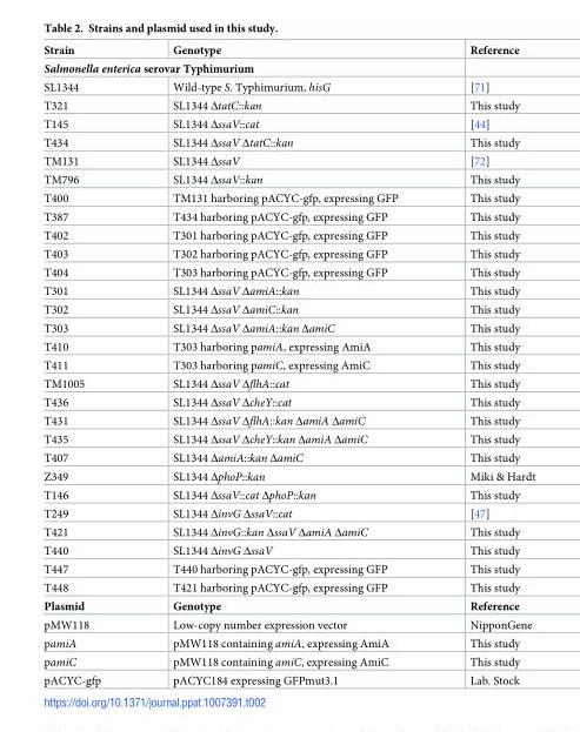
<table><tbody><tr><td>Strain</td><td>Genotype</td><td>Reference</td></tr><tr><td colspan="3">Salmonella enterica serovar Typhimurium</td></tr><tr><td>SL1344</td><td>Wild-type S. Typhimurium, hisG</td><td>[71]</td></tr><tr><td>T321</td><td>SL1344 ΔtatC::kan</td><td>This study</td></tr><tr><td>T145</td><td>SL1344 ΔssaV::cat</td><td>[44]</td></tr><tr><td>T434</td><td>SL1344 ΔssaV ΔtatC::kan</td><td>This study</td></tr><tr><td>TM131</td><td>SL1344 ΔssaV</td><td>[72]</td></tr><tr><td>TM796</td><td>SL1344 ΔssaV::kan</td><td>This study</td></tr><tr><td>T400</td><td>TM131 harboring pACYC-gfp, expressing GFP</td><td>This study</td></tr><tr><td>T387</td><td>T434 harboring pACYC-gfp, expressing GFP</td><td>This study</td></tr><tr><td>T402</td><td>T301 harboring pACYC-gfp, expressing GFP</td><td>This study</td></tr><tr><td>T403</td><td>T302 harboring pACYC-gfp, expressing GFP</td><td>This study</td></tr><tr><td>T404</td><td>T303 harboring pACYC-gfp, expressing GFP</td><td>This study</td></tr><tr><td>T301</td><td>SL1344 ΔssaV ΔamiA::kan</td><td>This study</td></tr><tr><td>T302</td><td>SL1344 ΔssaV ΔamiC::kan</td><td>This study</td></tr><tr><td>T303</td><td>SL1344 ΔssaV ΔamiA::kan ΔamiC</td><td>This study</td></tr><tr><td>T410</td><td>T303 harboring pamiA, expressing AmiA</td><td>This study</td></tr><tr><td>T411</td><td>T303 harboring pamiC, expressing AmiC</td><td>This study</td></tr><tr><td>TM1005</td><td>SL1344 ΔssaV ΔflhA::cat</td><td>This study</td></tr><tr><td>T436</td><td>SL1344 ΔssaV ΔcheY::cat</td><td>This study</td></tr><tr><td>T431</td><td>SL1344 ΔssaV ΔflhA::kan ΔamiA ΔamiC</td><td>This study</td></tr><tr><td>T435</td><td>SL1344 ΔssaV ΔcheY::kan ΔamiA ΔamiC</td><td>This study</td></tr><tr><td>T407</td><td>SL1344 ΔamiA::kan ΔamiC</td><td>This study</td></tr><tr><td>Z349</td><td>SL1344 ΔphoP::kan</td><td>Miki &amp; Hardt</td></tr><tr><td>T146</td><td>SL1344 ΔssaV::cat ΔphoP::kan</td><td>This study</td></tr><tr><td>T249</td><td>SL1344 ΔinvG ΔssaV::cat</td><td>[47]</td></tr><tr><td>T421</td><td>SL1344 ΔinvG::kan ΔssaV ΔamiA ΔamiC</td><td>This study</td></tr><tr><td>T440</td><td>SL1344 ΔinvG ΔssaV</td><td>This study</td></tr><tr><td>T447</td><td>T440 harboring pACYC-gfp, expressing GFP</td><td>This study</td></tr><tr><td>T448</td><td>T421 harboring pACYC-gfp, expressing GFP</td><td>This study</td></tr><tr><td>Plasmid</td><td>Genotype</td><td>Reference</td></tr><tr><td>pMW118</td><td>Low-copy number expression vector</td><td>NipponGene</td></tr><tr><td>pamiA</td><td>pMW118 containing amiA, expressing AmiA</td><td>This study</td></tr><tr><td>pamiC</td><td>pMW118 containing amiC, expressing AmiC</td><td>This study</td></tr><tr><td>pACYC-gfp</td><td>pACYC184 expressing GFPmut3.1</td><td>Lab. Stock</td></tr></tbody></table>